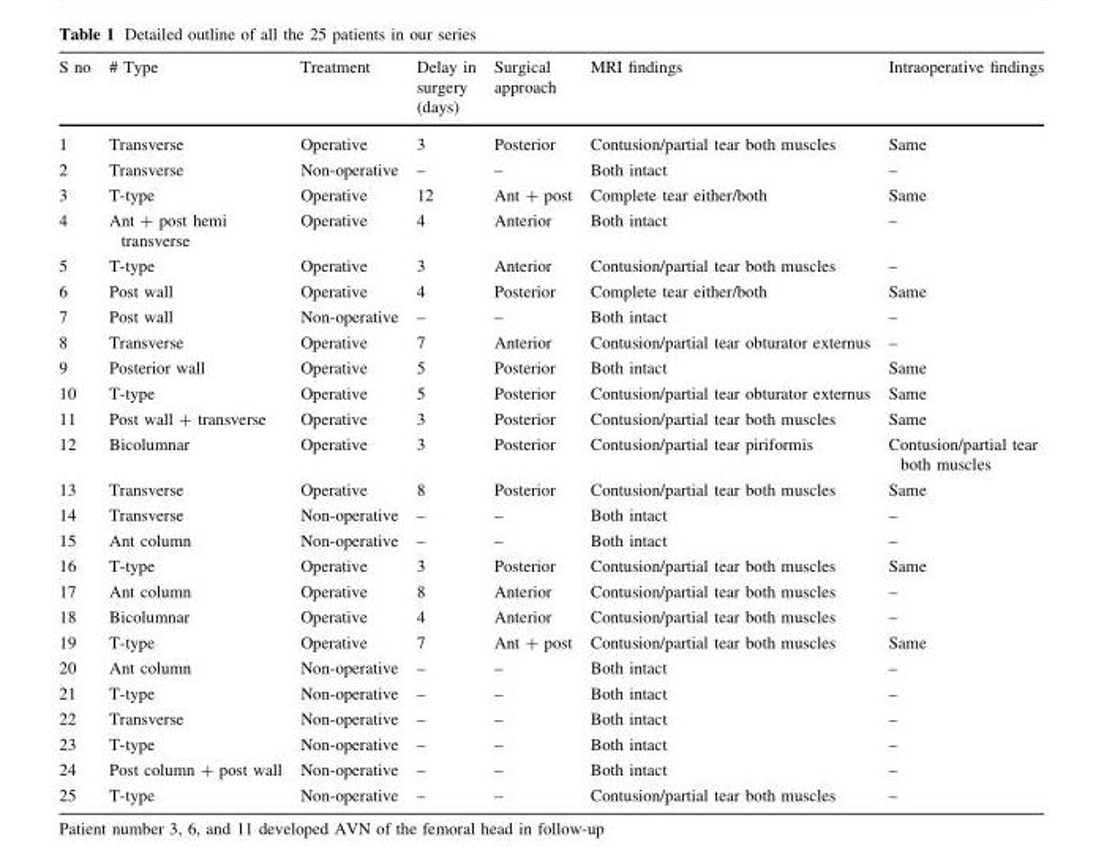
<table><thead><tr><td>S no</td><td># Type</td><td>Treatment</td><td>Delay in surgery (days)</td><td>Surgical approach</td><td>MRI findings</td><td>Intraoperative findings</td></tr></thead><tbody><tr><td>1</td><td>Transverse</td><td>Operative</td><td>3</td><td>Posterior</td><td>Contusion/partial tear both muscles</td><td>Same</td></tr><tr><td>2</td><td>Transverse</td><td>Non-operative</td><td>–</td><td>–</td><td>Both intact</td><td>–</td></tr><tr><td>3</td><td>T-type</td><td>Operative</td><td>12</td><td>Ant + post</td><td>Complete tear either/both</td><td>Same</td></tr><tr><td>4</td><td>Ant + post hemi transverse</td><td>Operative</td><td>4</td><td>Anterior</td><td>Both intact</td><td>–</td></tr><tr><td>5</td><td>T-type</td><td>Operative</td><td>3</td><td>Anterior</td><td>Contusion/partial tear both muscles</td><td>–</td></tr><tr><td>6</td><td>Post wall</td><td>Operative</td><td>4</td><td>Posterior</td><td>Complete tear either/both</td><td>Same</td></tr><tr><td>7</td><td>Post wall</td><td>Non-operative</td><td>–</td><td>–</td><td>Both intact</td><td>–</td></tr><tr><td>8</td><td>Transverse</td><td>Operative</td><td>7</td><td>Anterior</td><td>Contusion/partial tear obturator externus</td><td>–</td></tr><tr><td>9</td><td>Posterior wall</td><td>Operative</td><td>5</td><td>Posterior</td><td>Both intact</td><td>Same</td></tr><tr><td>10</td><td>T-type</td><td>Operative</td><td>5</td><td>Posterior</td><td>Contusion/partial tear obturator externus</td><td>Same</td></tr><tr><td>11</td><td>Post wall + transverse</td><td>Operative</td><td>3</td><td>Posterior</td><td>Contusion/partial tear both muscles</td><td>Same</td></tr><tr><td>12</td><td>Bicolumnar</td><td>Operative</td><td>3</td><td>Posterior</td><td>Contusion/partial tear piriformis</td><td>Contusion/partial tear both muscles</td></tr><tr><td>13</td><td>Transverse</td><td>Operative</td><td>8</td><td>Posterior</td><td>Contusion/partial tear both muscles</td><td>Same</td></tr><tr><td>14</td><td>Transverse</td><td>Non-operative</td><td>–</td><td>–</td><td>Both intact</td><td>–</td></tr><tr><td>15</td><td>Ant column</td><td>Non-operative</td><td>–</td><td>–</td><td>Both intact</td><td>–</td></tr><tr><td>16</td><td>T-type</td><td>Operative</td><td>3</td><td>Posterior</td><td>Contusion/partial tear both muscles</td><td>Same</td></tr><tr><td>17</td><td>Ant column</td><td>Operative</td><td>8</td><td>Anterior</td><td>Contusion/partial tear both muscles</td><td>–</td></tr><tr><td>18</td><td>Bicolumnar</td><td>Operative</td><td>4</td><td>Anterior</td><td>Contusion/partial tear both muscles</td><td>–</td></tr><tr><td>19</td><td>T-type</td><td>Operative</td><td>7</td><td>Ant + post</td><td>Contusion/partial tear both muscles</td><td>Same</td></tr><tr><td>20</td><td>Ant column</td><td>Non-operative</td><td>–</td><td>–</td><td>Both intact</td><td>–</td></tr><tr><td>21</td><td>T-type</td><td>Non-operative</td><td>–</td><td>–</td><td>Both intact</td><td>–</td></tr><tr><td>22</td><td>Transverse</td><td>Non-operative</td><td>–</td><td>–</td><td>Both intact</td><td>–</td></tr><tr><td>23</td><td>T-type</td><td>Non-operative</td><td>–</td><td>–</td><td>Both intact</td><td>–</td></tr><tr><td>24</td><td>Post column + post wall</td><td>Non-operative</td><td>–</td><td>–</td><td>Both intact</td><td>–</td></tr><tr><td>25</td><td>T-type</td><td>Non-operative</td><td>–</td><td>–</td><td>Contusion/partial tear both muscles</td><td>–</td></tr></tbody></table>